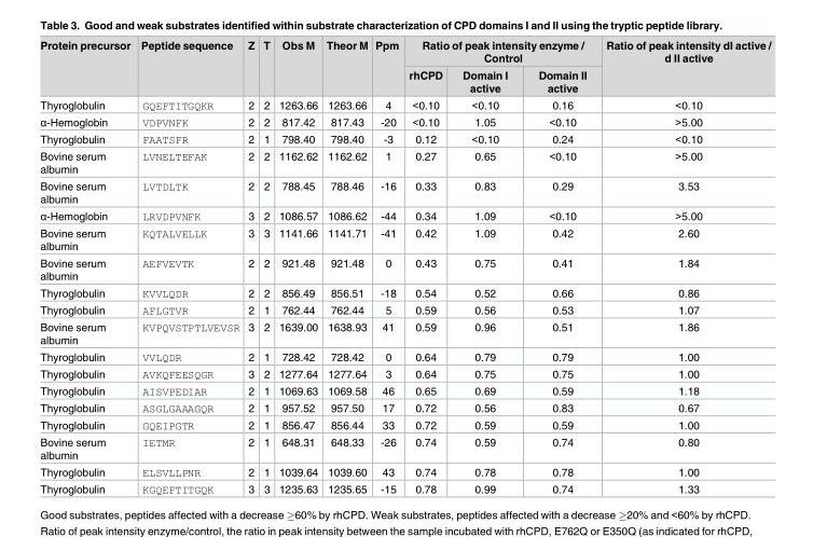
<table><thead><tr><td rowspan="2">Protein precursor</td><td rowspan="2">Peptide sequence</td><td rowspan="2">Z</td><td rowspan="2">T</td><td rowspan="2">Obs M</td><td rowspan="2">Theor M</td><td rowspan="2">Ppm</td><td colspan="3">Ratio of peak intensity enzyme / Control</td><td rowspan="2">Ratio of peak intensity dI active / d II active</td></tr><tr><td>rhCPD</td><td>Domain I active</td><td>Domain II active</td></tr></thead><tbody><tr><td>Thyroglobulin</td><td>GQEFTITGQKR</td><td>2</td><td>2</td><td>1263.66</td><td>1263.66</td><td>4</td><td>&lt;0.10</td><td>&lt;0.10</td><td>0.16</td><td>&lt;0.10</td></tr><tr><td>α-Hemoglobin</td><td>VDPVNFK</td><td>2</td><td>2</td><td>817.42</td><td>817.43</td><td>-20</td><td>&lt;0.10</td><td>1.05</td><td>&lt;0.10</td><td>&gt;5.00</td></tr><tr><td>Thyroglobulin</td><td>FAATSFR</td><td>2</td><td>1</td><td>798.40</td><td>798.40</td><td>-3</td><td>0.12</td><td>&lt;0.10</td><td>0.24</td><td>&lt;0.10</td></tr><tr><td>Bovine serum albumin</td><td>LVNELTEFAK</td><td>2</td><td>2</td><td>1162.62</td><td>1162.62</td><td>1</td><td>0.27</td><td>0.65</td><td>&lt;0.10</td><td>&gt;5.00</td></tr><tr><td>Bovine serum albumin</td><td>LVTDLTK</td><td>2</td><td>2</td><td>788.45</td><td>788.46</td><td>-16</td><td>0.33</td><td>0.83</td><td>0.29</td><td>3.53</td></tr><tr><td>α-Hemoglobin</td><td>LRVDPVNFK</td><td>3</td><td>2</td><td>1086.57</td><td>1086.62</td><td>-44</td><td>0.34</td><td>1.09</td><td>&lt;0.10</td><td>&gt;5.00</td></tr><tr><td>Bovine serum albumin</td><td>KQTALVELLK</td><td>3</td><td>3</td><td>1141.66</td><td>1141.71</td><td>-41</td><td>0.42</td><td>1.09</td><td>0.42</td><td>2.60</td></tr><tr><td>Bovine serum albumin</td><td>AEFVEVTK</td><td>2</td><td>2</td><td>921.48</td><td>921.48</td><td>0</td><td>0.43</td><td>0.75</td><td>0.41</td><td>1.84</td></tr><tr><td>Thyroglobulin</td><td>KVVLQDR</td><td>2</td><td>2</td><td>856.49</td><td>856.51</td><td>-18</td><td>0.54</td><td>0.52</td><td>0.66</td><td>0.86</td></tr><tr><td>Thyroglobulin</td><td>AFLGTVR</td><td>2</td><td>1</td><td>762.44</td><td>762.44</td><td>5</td><td>0.59</td><td>0.56</td><td>0.53</td><td>1.07</td></tr><tr><td>Bovine serum albumin</td><td>KVPQVSTPTLVEVSR</td><td>3</td><td>2</td><td>1639.00</td><td>1638.93</td><td>41</td><td>0.59</td><td>0.96</td><td>0.51</td><td>1.86</td></tr><tr><td>Thyroglobulin</td><td>VVLQDR</td><td>2</td><td>1</td><td>728.42</td><td>728.42</td><td>0</td><td>0.64</td><td>0.79</td><td>0.79</td><td>1.00</td></tr><tr><td>Thyroglobulin</td><td>AVKQFEESQGR</td><td>3</td><td>2</td><td>1277.64</td><td>1277.64</td><td>3</td><td>0.64</td><td>0.75</td><td>0.75</td><td>1.00</td></tr><tr><td>Thyroglobulin</td><td>AISVPEDIAR</td><td>2</td><td>1</td><td>1069.63</td><td>1069.58</td><td>46</td><td>0.65</td><td>0.69</td><td>0.59</td><td>1.18</td></tr><tr><td>Thyroglobulin</td><td>ASGLGAAAGQR</td><td>2</td><td>1</td><td>957.52</td><td>957.50</td><td>17</td><td>0.72</td><td>0.56</td><td>0.83</td><td>0.67</td></tr><tr><td>Thyroglobulin</td><td>GQEIPGTR</td><td>2</td><td>1</td><td>856.47</td><td>856.44</td><td>33</td><td>0.72</td><td>0.59</td><td>0.59</td><td>1.00</td></tr><tr><td>Bovine serum albumin</td><td>IETMR</td><td>2</td><td>1</td><td>648.31</td><td>648.33</td><td>-26</td><td>0.74</td><td>0.59</td><td>0.74</td><td>0.80</td></tr><tr><td>Thyroglobulin</td><td>ELSVLLPNR</td><td>2</td><td>1</td><td>1039.64</td><td>1039.60</td><td>43</td><td>0.74</td><td>0.78</td><td>0.78</td><td>1.00</td></tr><tr><td>Thyroglobulin</td><td>KGQEFTITGQK</td><td>3</td><td>3</td><td>1235.63</td><td>1235.65</td><td>-15</td><td>0.78</td><td>0.99</td><td>0.74</td><td>1.33</td></tr></tbody></table>